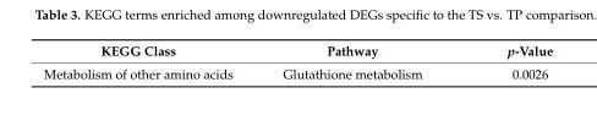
<table><thead><tr><td>KEGG Class</td><td>Pathway</td><td>p-Value</td></tr></thead><tbody><tr><td>Metabolism of other amino acids</td><td>Glutathione metabolism</td><td>0.0026</td></tr></tbody></table>